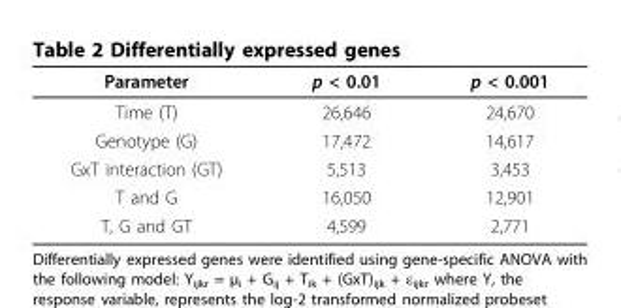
<table><thead><tr><td>Parameter</td><td>p &lt; 0.01</td><td>p &lt; 0.001</td></tr></thead><tbody><tr><td>Time (T)</td><td>26,646</td><td>24,670</td></tr><tr><td>Genotype (G)</td><td>17,472</td><td>14,617</td></tr><tr><td>GxT interaction (GT)</td><td>5,513</td><td>3,453</td></tr><tr><td>T and G</td><td>16,050</td><td>12,901</td></tr><tr><td>T, G and GT</td><td>4,599</td><td>2,771</td></tr></tbody></table>